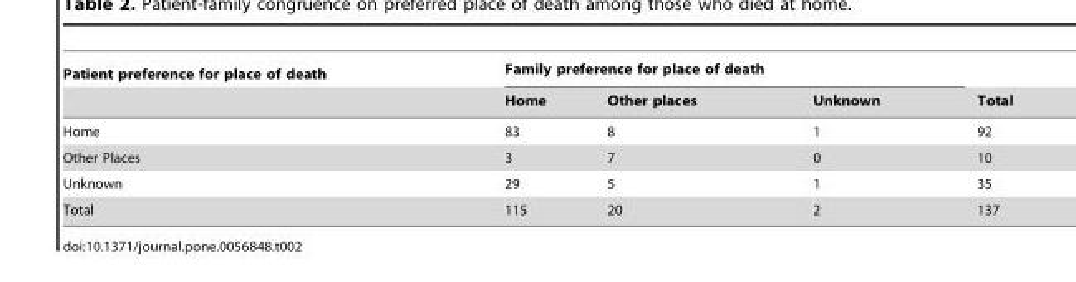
<table><thead><tr><td rowspan="2">Patient preference for place of death</td><td colspan="3">Family preference for place of death</td><td rowspan="2">Total</td></tr><tr><td>Home</td><td>Other places</td><td>Unknown</td></tr></thead><tbody><tr><td>Home</td><td>83</td><td>8</td><td>1</td><td>92</td></tr><tr><td>Other Places</td><td>3</td><td>7</td><td>0</td><td>10</td></tr><tr><td>Unknown</td><td>29</td><td>5</td><td>1</td><td>35</td></tr><tr><td>Total</td><td>115</td><td>20</td><td>2</td><td>137</td></tr></tbody></table>